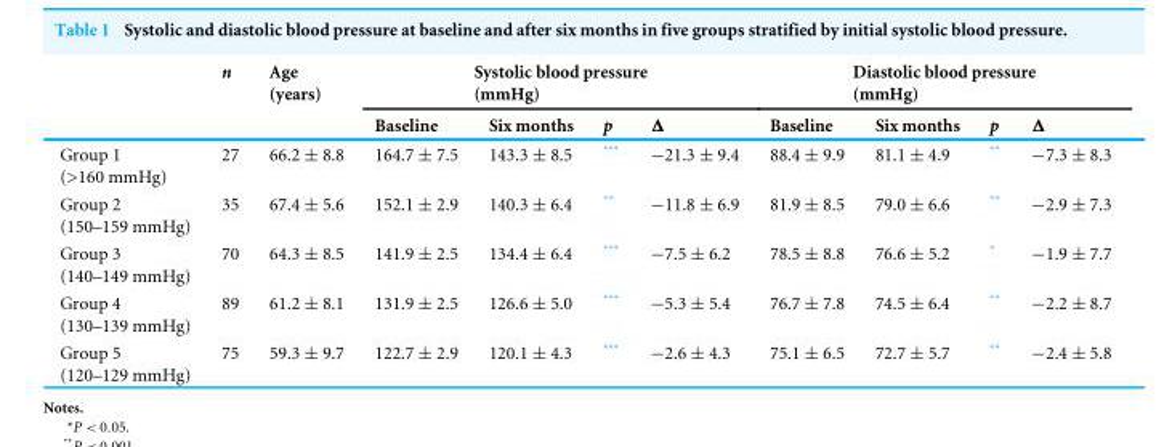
<table><thead><tr><td rowspan="2"></td><td rowspan="2">n</td><td rowspan="2">Age (years)</td><td colspan="4">Systolic blood pressure (mmHg)</td><td colspan="4">Diastolic blood pressure (mmHg)</td></tr><tr><td>Baseline</td><td>Six months</td><td>p</td><td>Δ</td><td>Baseline</td><td>Six months</td><td>p</td><td>Δ</td></tr></thead><tbody><tr><td>Group 1 (&gt;160 mmHg)</td><td>27</td><td>66.2 ± 8.8</td><td>164.7 ± 7.5</td><td>143.3 ± 8.5</td><td>***</td><td>−21.3 ± 9.4</td><td>88.4 ± 9.9</td><td>81.1 ± 4.9</td><td>**</td><td>−7.3 ± 8.3</td></tr><tr><td>Group 2 (150–159 mmHg)</td><td>35</td><td>67.4 ± 5.6</td><td>152.1 ± 2.9</td><td>140.3 ± 6.4</td><td>**</td><td>−11.8 ± 6.9</td><td>81.9 ± 8.5</td><td>79.0 ± 6.6</td><td>**</td><td>−2.9 ± 7.3</td></tr><tr><td>Group 3 (140–149 mmHg)</td><td>70</td><td>64.3 ± 8.5</td><td>141.9 ± 2.5</td><td>134.4 ± 6.4</td><td>***</td><td>−7.5 ± 6.2</td><td>78.5 ± 8.8</td><td>76.6 ± 5.2</td><td>*</td><td>−1.9 ± 7.7</td></tr><tr><td>Group 4 (130–139 mmHg)</td><td>89</td><td>61.2 ± 8.1</td><td>131.9 ± 2.5</td><td>126.6 ± 5.0</td><td>***</td><td>−5.3 ± 5.4</td><td>76.7 ± 7.8</td><td>74.5 ± 6.4</td><td>**</td><td>−2.2 ± 8.7</td></tr><tr><td>Group 5 (120–129 mmHg)</td><td>75</td><td>59.3 ± 9.7</td><td>122.7 ± 2.9</td><td>120.1 ± 4.3</td><td>***</td><td>−2.6 ± 4.3</td><td>75.1 ± 6.5</td><td>72.7 ± 5.7</td><td>**</td><td>−2.4 ± 5.8</td></tr></tbody></table>